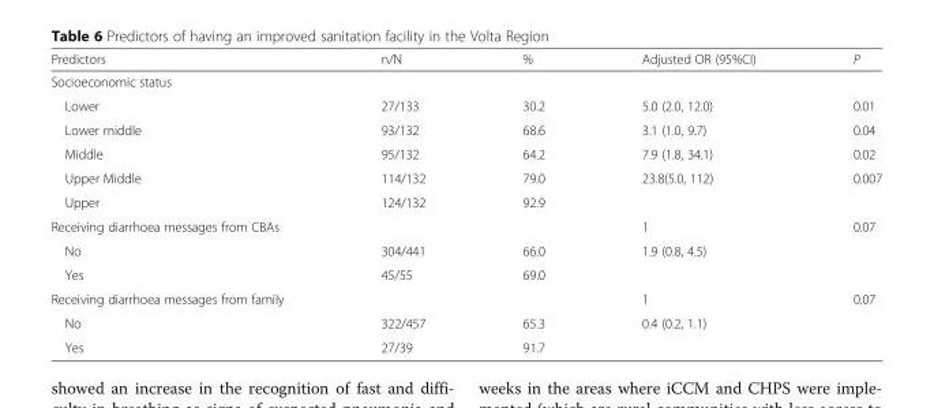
<table><thead><tr><td>Predictors</td><td>n/N</td><td>%</td><td>Adjusted OR (95%CI)</td><td>P</td></tr></thead><tbody><tr><td colspan="5">Socioeconomic status</td></tr><tr><td>Lower</td><td>27/133</td><td>30.2</td><td>5.0 (2.0, 12.0)</td><td>0.01</td></tr><tr><td>Lower middle</td><td>93/132</td><td>68.6</td><td>3.1 (1.0, 9.7)</td><td>0.04</td></tr><tr><td>Middle</td><td>95/132</td><td>64.2</td><td>7.9 (1.8, 34.1)</td><td>0.02</td></tr><tr><td>Upper Middle</td><td>114/132</td><td>79.0</td><td>23.8(5.0, 112)</td><td>0.007</td></tr><tr><td>Upper</td><td>124/132</td><td>92.9</td><td></td><td></td></tr><tr><td>Receiving diarrhoea messages from CBAs</td><td></td><td></td><td>1</td><td>0.07</td></tr><tr><td>No</td><td>304/441</td><td>66.0</td><td>1.9 (0.8, 4.5)</td><td></td></tr><tr><td>Yes</td><td>45/55</td><td>69.0</td><td></td><td></td></tr><tr><td>Receiving diarrhoea messages from family</td><td></td><td></td><td>1</td><td>0.07</td></tr><tr><td>No</td><td>322/457</td><td>65.3</td><td>0.4 (0.2, 1.1)</td><td></td></tr><tr><td>Yes</td><td>27/39</td><td>91.7</td><td></td><td></td></tr></tbody></table>